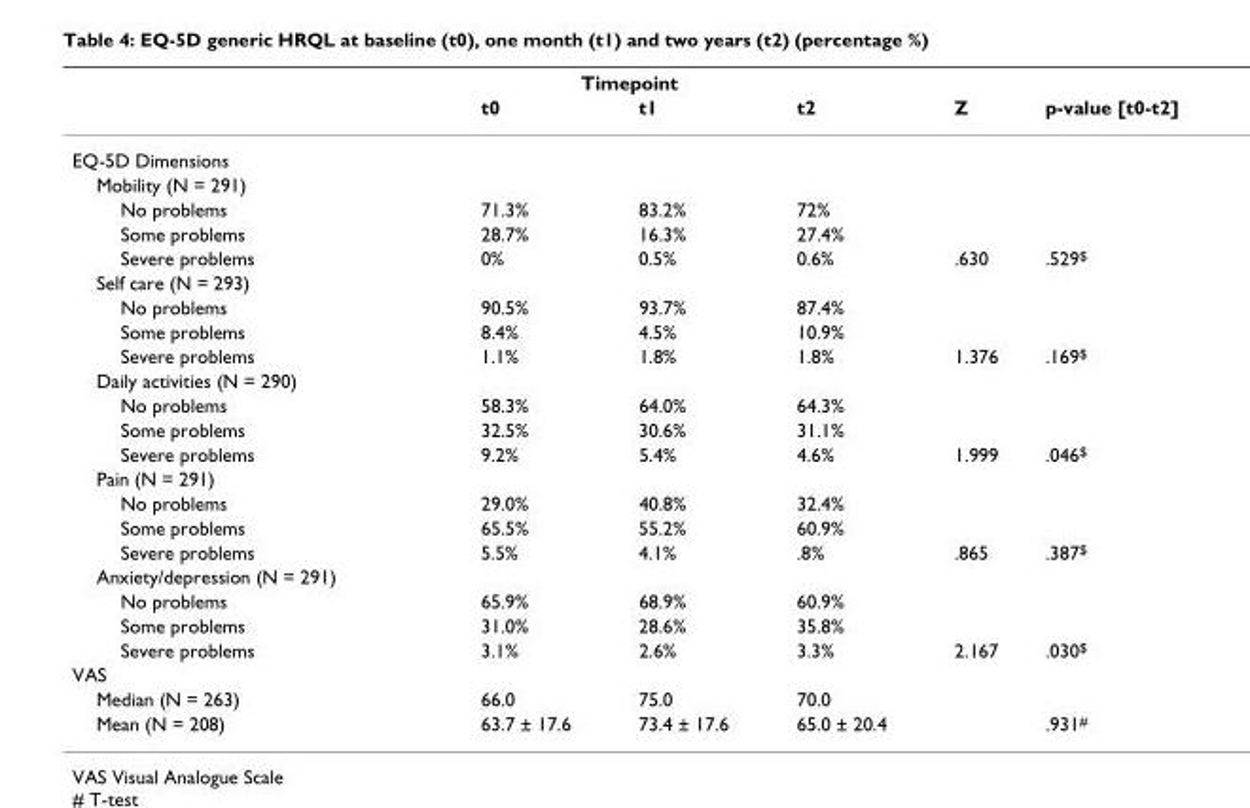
<table><thead><tr><td rowspan="2"></td><td colspan="2">Timepoint</td><td rowspan="2">t2</td><td rowspan="2">Z</td><td rowspan="2">p-value [t0-t2]</td></tr><tr><td>t0</td><td>t1</td></tr></thead><tbody><tr><td colspan="6">EQ-5D Dimensions</td></tr><tr><td colspan="6">Mobility (N = 291)</td></tr><tr><td>No problems</td><td>71.3%</td><td>83.2%</td><td>72%</td><td></td><td></td></tr><tr><td>Some problems</td><td>28.7%</td><td>16.3%</td><td>27.4%</td><td></td><td></td></tr><tr><td>Severe problems</td><td>0%</td><td>0.5%</td><td>0.6%</td><td>.630</td><td>.529<sup>$</sup></td></tr><tr><td colspan="6">Self care (N = 293)</td></tr><tr><td>No problems</td><td>90.5%</td><td>93.7%</td><td>87.4%</td><td></td><td></td></tr><tr><td>Some problems</td><td>8.4%</td><td>4.5%</td><td>10.9%</td><td></td><td></td></tr><tr><td>Severe problems</td><td>1.1%</td><td>1.8%</td><td>1.8%</td><td>1.376</td><td>.169<sup>$</sup></td></tr><tr><td colspan="6">Daily activities (N = 290)</td></tr><tr><td>No problems</td><td>58.3%</td><td>64.0%</td><td>64.3%</td><td></td><td></td></tr><tr><td>Some problems</td><td>32.5%</td><td>30.6%</td><td>31.1%</td><td></td><td></td></tr><tr><td>Severe problems</td><td>9.2%</td><td>5.4%</td><td>4.6%</td><td>1.999</td><td>.046<sup>$</sup></td></tr><tr><td colspan="6">Pain (N = 291)</td></tr><tr><td>No problems</td><td>29.0%</td><td>40.8%</td><td>32.4%</td><td></td><td></td></tr><tr><td>Some problems</td><td>65.5%</td><td>55.2%</td><td>60.9%</td><td></td><td></td></tr><tr><td>Severe problems</td><td>5.5%</td><td>4.1%</td><td>.8%</td><td>.865</td><td>.387<sup>$</sup></td></tr><tr><td colspan="6">Anxiety/depression (N = 291)</td></tr><tr><td>No problems</td><td>65.9%</td><td>68.9%</td><td>60.9%</td><td></td><td></td></tr><tr><td>Some problems</td><td>31.0%</td><td>28.6%</td><td>35.8%</td><td></td><td></td></tr><tr><td>Severe problems</td><td>3.1%</td><td>2.6%</td><td>3.3%</td><td>2.167</td><td>.030<sup>$</sup></td></tr><tr><td colspan="6">VAS</td></tr><tr><td>Median (N = 263)</td><td>66.0</td><td>75.0</td><td>70.0</td><td></td><td></td></tr><tr><td>Mean (N = 208)</td><td>63.7 ± 17.6</td><td>73.4 ± 17.6</td><td>65.0 ± 20.4</td><td></td><td>.931<sup>#</sup></td></tr></tbody></table>